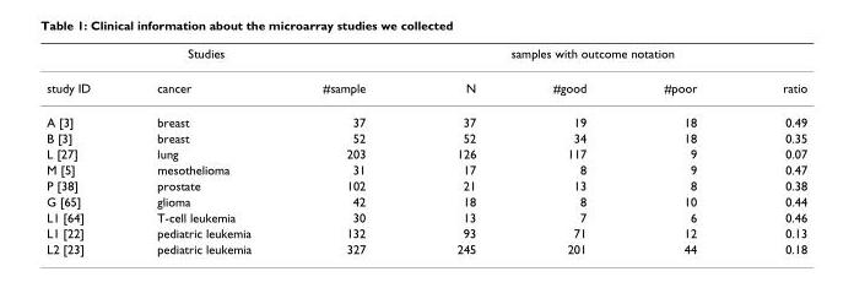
<table><thead><tr><td colspan="3">Studies</td><td colspan="4">samples with outcome notation</td></tr><tr><td>study ID</td><td>cancer</td><td>#sample</td><td>N</td><td>#good</td><td>#poor</td><td>ratio</td></tr></thead><tbody><tr><td>A [3]</td><td>breast</td><td>37</td><td>37</td><td>19</td><td>18</td><td>0.49</td></tr><tr><td>B [3]</td><td>breast</td><td>52</td><td>52</td><td>34</td><td>18</td><td>0.35</td></tr><tr><td>L [27]</td><td>lung</td><td>203</td><td>126</td><td>117</td><td>9</td><td>0.07</td></tr><tr><td>M [5]</td><td>mesothelioma</td><td>31</td><td>17</td><td>8</td><td>9</td><td>0.47</td></tr><tr><td>P [38]</td><td>prostate</td><td>102</td><td>21</td><td>13</td><td>8</td><td>0.38</td></tr><tr><td>G [65]</td><td>glioma</td><td>42</td><td>18</td><td>8</td><td>10</td><td>0.44</td></tr><tr><td>L1 [64]</td><td>T-cell leukemia</td><td>30</td><td>13</td><td>7</td><td>6</td><td>0.46</td></tr><tr><td>L1 [22]</td><td>pediatric leukemia</td><td>132</td><td>93</td><td>71</td><td>12</td><td>0.13</td></tr><tr><td>L2 [23]</td><td>pediatric leukemia</td><td>327</td><td>245</td><td>201</td><td>44</td><td>0.18</td></tr></tbody></table>